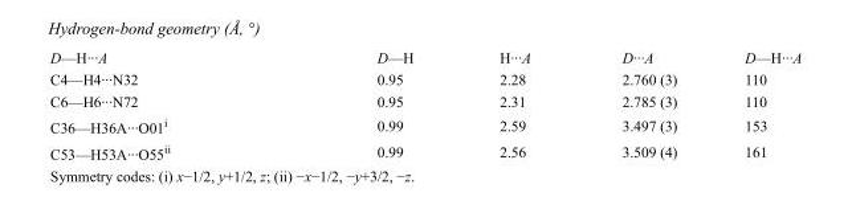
<table><tbody><tr><td>D—H···A</td><td>D—H</td><td>H···A</td><td>D···A</td><td>D—H···A</td></tr><tr><td>C4—H4···N32</td><td>0.95</td><td>2.28</td><td>2.760 (3)</td><td>110</td></tr><tr><td>C6—H6···N72</td><td>0.95</td><td>2.31</td><td>2.785 (3)</td><td>110</td></tr><tr><td>C36—H36A···O01<sup>i</sup></td><td>0.99</td><td>2.59</td><td>3.497 (3)</td><td>153</td></tr><tr><td>C53—H53A···O55<sup>ii</sup></td><td>0.99</td><td>2.56</td><td>3.509 (4)</td><td>161</td></tr></tbody></table>